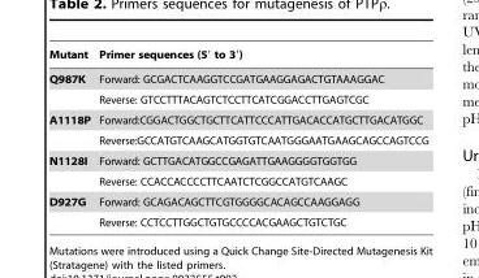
<table><thead><tr><td>Mutant</td><td>Primer sequences (5′ to 3′)</td></tr></thead><tbody><tr><td rowspan="2">Q987K</td><td>Forward: GCGACTCAAGGTCCGATGAAGGAGACTGTAAAGGAC</td></tr><tr><td>Reverse: GTCCTTTACAGTCTCCTTCATCGGACCTTGAGTCGC</td></tr><tr><td rowspan="2">A1118P</td><td>Forward:CGGACTGGCTGCTTCATTCCCATTGACACCATGCTTGACATGGC</td></tr><tr><td>Reverse:GCCATGTCAAGCATGGTGTCAATGGGAATGAAGCAGCCAGTCCG</td></tr><tr><td rowspan="2">N1128I</td><td>Forward: GCTTGACATGGCCGAGATTGAAGGGGTGGTGG</td></tr><tr><td>Reverse: CCACCACCCCTTCAATCTCGGCCATGTCAAGC</td></tr><tr><td rowspan="2">D927G</td><td>Forward: GCAGACAGCTTCGTGGGGCACAGCCAAGGAGG</td></tr><tr><td>Reverse: CCTCCTTGGCTGTGCCCCACGAAGCTGTCTGC</td></tr></tbody></table>